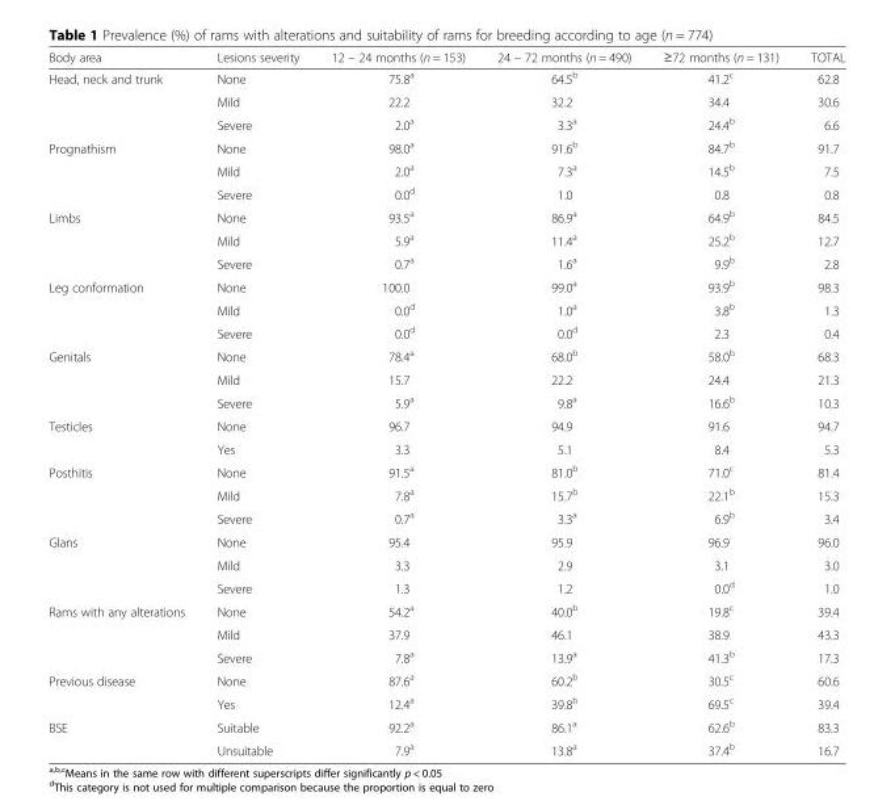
<table><thead><tr><td>Body area</td><td>Lesions severity</td><td>12 – 24 months (n = 153)</td><td>24 – 72 months (n = 490)</td><td>≥72 months (n = 131)</td><td>TOTAL</td></tr></thead><tbody><tr><td rowspan="3">Head, neck and trunk</td><td>None</td><td>75.8<sup>a</sup></td><td>64.5<sup>b</sup></td><td>41.2<sup>c</sup></td><td>62.8</td></tr><tr><td>Mild</td><td>22.2</td><td>32.2</td><td>34.4</td><td>30.6</td></tr><tr><td>Severe</td><td>2.0<sup>a</sup></td><td>3.3<sup>a</sup></td><td>24.4<sup>b</sup></td><td>6.6</td></tr><tr><td rowspan="3">Prognathism</td><td>None</td><td>98.0<sup>a</sup></td><td>91.6<sup>b</sup></td><td>84.7<sup>b</sup></td><td>91.7</td></tr><tr><td>Mild</td><td>2.0<sup>a</sup></td><td>7.3<sup>a</sup></td><td>14.5<sup>b</sup></td><td>7.5</td></tr><tr><td>Severe</td><td>0.0<sup>d</sup></td><td>1.0</td><td>0.8</td><td>0.8</td></tr><tr><td rowspan="3">Limbs</td><td>None</td><td>93.5<sup>a</sup></td><td>86.9<sup>a</sup></td><td>64.9<sup>b</sup></td><td>84.5</td></tr><tr><td>Mild</td><td>5.9<sup>a</sup></td><td>11.4<sup>a</sup></td><td>25.2<sup>b</sup></td><td>12.7</td></tr><tr><td>Severe</td><td>0.7<sup>a</sup></td><td>1.6<sup>a</sup></td><td>9.9<sup>b</sup></td><td>2.8</td></tr><tr><td rowspan="3">Leg conformation</td><td>None</td><td>100.0</td><td>99.0<sup>a</sup></td><td>93.9<sup>b</sup></td><td>98.3</td></tr><tr><td>Mild</td><td>0.0<sup>d</sup></td><td>1.0<sup>a</sup></td><td>3.8<sup>b</sup></td><td>1.3</td></tr><tr><td>Severe</td><td>0.0<sup>d</sup></td><td>0.0<sup>d</sup></td><td>2.3</td><td>0.4</td></tr><tr><td rowspan="3">Genitals</td><td>None</td><td>78.4<sup>a</sup></td><td>68.0<sup>b</sup></td><td>58.0<sup>b</sup></td><td>68.3</td></tr><tr><td>Mild</td><td>15.7</td><td>22.2</td><td>24.4</td><td>21.3</td></tr><tr><td>Severe</td><td>5.9<sup>a</sup></td><td>9.8<sup>a</sup></td><td>16.6<sup>b</sup></td><td>10.3</td></tr><tr><td rowspan="2">Testicles</td><td>None</td><td>96.7</td><td>94.9</td><td>91.6</td><td>94.7</td></tr><tr><td>Yes</td><td>3.3</td><td>5.1</td><td>8.4</td><td>5.3</td></tr><tr><td rowspan="3">Posthitis</td><td>None</td><td>91.5<sup>a</sup></td><td>81.0<sup>b</sup></td><td>71.0<sup>c</sup></td><td>81.4</td></tr><tr><td>Mild</td><td>7.8<sup>a</sup></td><td>15.7<sup>b</sup></td><td>22.1<sup>b</sup></td><td>15.3</td></tr><tr><td>Severe</td><td>0.7<sup>a</sup></td><td>3.3<sup>a</sup></td><td>6.9<sup>b</sup></td><td>3.4</td></tr><tr><td rowspan="3">Glans</td><td>None</td><td>95.4</td><td>95.9</td><td>96.9</td><td>96.0</td></tr><tr><td>Mild</td><td>3.3</td><td>2.9</td><td>3.1</td><td>3.0</td></tr><tr><td>Severe</td><td>1.3</td><td>1.2</td><td>0.0<sup>d</sup></td><td>1.0</td></tr><tr><td rowspan="3">Rams with any alterations</td><td>None</td><td>54.2<sup>a</sup></td><td>40.0<sup>b</sup></td><td>19.8<sup>c</sup></td><td>39.4</td></tr><tr><td>Mild</td><td>37.9</td><td>46.1</td><td>38.9</td><td>43.3</td></tr><tr><td>Severe</td><td>7.8<sup>a</sup></td><td>13.9<sup>a</sup></td><td>41.3<sup>b</sup></td><td>17.3</td></tr><tr><td rowspan="2">Previous disease</td><td>None</td><td>87.6<sup>a</sup></td><td>60.2<sup>b</sup></td><td>30.5<sup>c</sup></td><td>60.6</td></tr><tr><td>Yes</td><td>12.4<sup>a</sup></td><td>39.8<sup>b</sup></td><td>69.5<sup>c</sup></td><td>39.4</td></tr><tr><td rowspan="2">BSE</td><td>Suitable</td><td>92.2<sup>a</sup></td><td>86.1<sup>a</sup></td><td>62.6<sup>b</sup></td><td>83.3</td></tr><tr><td>Unsuitable</td><td>7.9<sup>a</sup></td><td>13.8<sup>a</sup></td><td>37.4<sup>b</sup></td><td>16.7</td></tr></tbody></table>